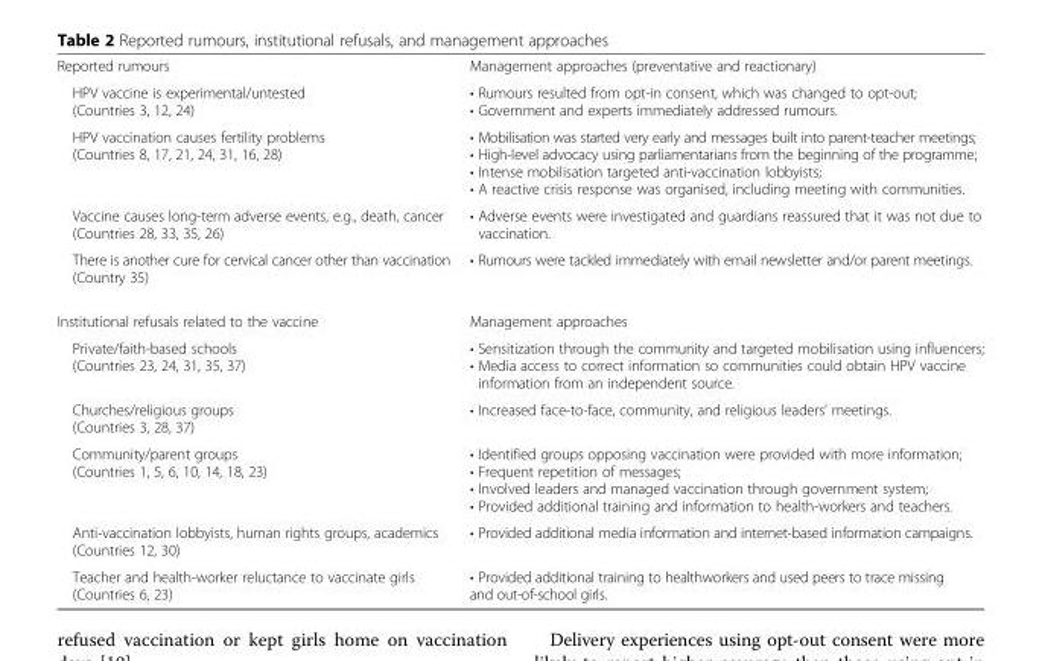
<table><tbody><tr><td>Reported rumours</td><td>Management approaches (preventative and reactionary)</td></tr><tr><td>HPV vaccine is experimental/untested (Countries 3, 12, 24)</td><td>• Rumours resulted from opt-in consent, which was changed to opt-out; • Government and experts immediately addressed rumours.</td></tr><tr><td>HPV vaccination causes fertility problems (Countries 8, 17, 21, 24, 31, 16, 28)</td><td>• Mobilisation was started very early and messages built into parent-teacher meetings; • High-level advocacy using parliamentarians from the beginning of the programme; • Intense mobilisation targeted anti-vaccination lobbyists; • A reactive crisis response was organised, including meeting with communities.</td></tr><tr><td>Vaccine causes long-term adverse events, e.g., death, cancer (Countries 28, 33, 35, 26)</td><td>• Adverse events were investigated and guardians reassured that it was not due to vaccination.</td></tr><tr><td>There is another cure for cervical cancer other than vaccination (Country 35)</td><td>• Rumours were tackled immediately with email newsletter and/or parent meetings.</td></tr><tr><td>Institutional refusals related to the vaccine</td><td>Management approaches</td></tr><tr><td>Private/faith-based schools (Countries 23, 24, 31, 35, 37)</td><td>• Sensitization through the community and targeted mobilisation using influencers; • Media access to correct information so communities could obtain HPV vaccine information from an independent source.</td></tr><tr><td>Churches/religious groups (Countries 3, 28, 37)</td><td>• Increased face-to-face, community, and religious leaders’ meetings.</td></tr><tr><td>Community/parent groups (Countries 1, 5, 6, 10, 14, 18, 23)</td><td>• Identified groups opposing vaccination were provided with more information; • Frequent repetition of messages; • Involved leaders and managed vaccination through government system; • Provided additional training and information to health-workers and teachers.</td></tr><tr><td>Anti-vaccination lobbyists, human rights groups, academics (Countries 12, 30)</td><td>• Provided additional media information and internet-based information campaigns.</td></tr><tr><td>Teacher and health-worker reluctance to vaccinate girls (Countries 6, 23)</td><td>• Provided additional training to healthworkers and used peers to trace missing and out-of-school girls.</td></tr></tbody></table>